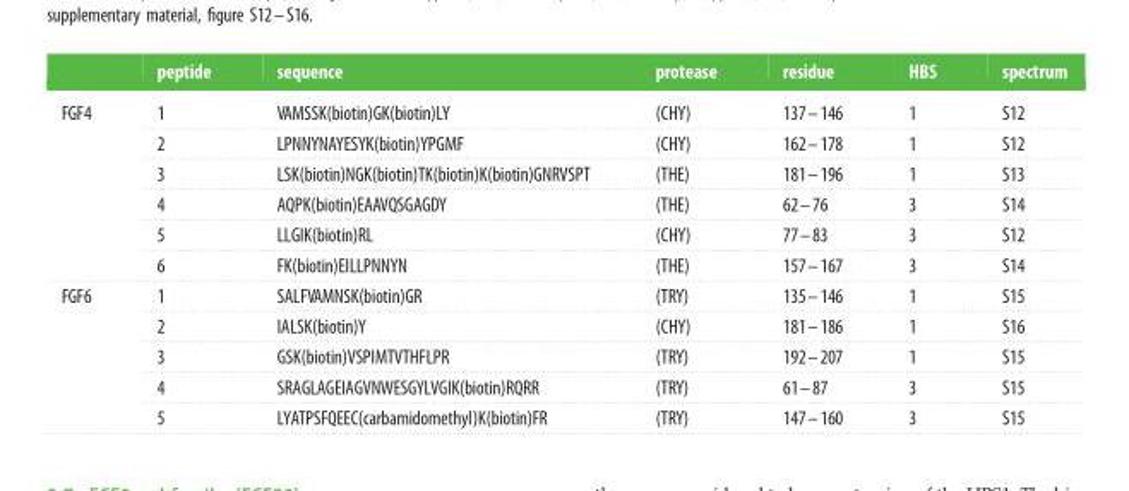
<table><thead><tr><td></td><td>peptide</td><td>sequence</td><td>protease</td><td>residue</td><td>HBS</td><td>spectrum</td></tr></thead><tbody><tr><td rowspan="6">FGF4</td><td>1</td><td>VAMSSK(biotin)GK(biotin)LY</td><td>(CHY)</td><td>137–146</td><td>1</td><td>S12</td></tr><tr><td>2</td><td>LPNNYNAYESYK(biotin)YPGMF</td><td>(CHY)</td><td>162–178</td><td>1</td><td>S12</td></tr><tr><td>3</td><td>LSK(biotin)NGK(biotin)TK(biotin)K(biotin)GNRVSPT</td><td>(THE)</td><td>181–196</td><td>1</td><td>S13</td></tr><tr><td>4</td><td>AQPK(biotin)EAAVQSGAGDY</td><td>(THE)</td><td>62–76</td><td>3</td><td>S14</td></tr><tr><td>5</td><td>LLGIK(biotin)RL</td><td>(CHY)</td><td>77–83</td><td>3</td><td>S12</td></tr><tr><td>6</td><td>FK(biotin)EILLPNNYN</td><td>(THE)</td><td>157–167</td><td>3</td><td>S14</td></tr><tr><td rowspan="5">FGF6</td><td>1</td><td>SALFVAMNSK(biotin)GR</td><td>(TRY)</td><td>135–146</td><td>1</td><td>S15</td></tr><tr><td>2</td><td>IALSK(biotin)Y</td><td>(CHY)</td><td>181–186</td><td>1</td><td>S16</td></tr><tr><td>3</td><td>GSK(biotin)VSPIMTVTHFLPR</td><td>(TRY)</td><td>192–207</td><td>1</td><td>S15</td></tr><tr><td>4</td><td>SRAGLAGEIAGVNWESGYLVGIK(biotin)RQRR</td><td>(TRY)</td><td>61–87</td><td>3</td><td>S15</td></tr><tr><td>5</td><td>LYATPSFQEEC(carbamidomethyl)K(biotin)FR</td><td>(TRY)</td><td>147–160</td><td>3</td><td>S15</td></tr></tbody></table>